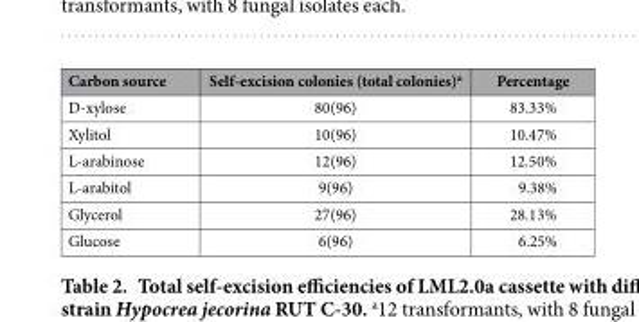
<table><thead><tr><td>Carbon source</td><td>Self-excision colonies (total colonies)<sup>a</sup></td><td>Percentage</td></tr></thead><tbody><tr><td>D-xylose</td><td>80(96)</td><td>83.33%</td></tr><tr><td>Xylitol</td><td>10(96)</td><td>10.47%</td></tr><tr><td>L-arabinose</td><td>12(96)</td><td>12.50%</td></tr><tr><td>L-arabitol</td><td>9(96)</td><td>9.38%</td></tr><tr><td>Glycerol</td><td>27(96)</td><td>28.13%</td></tr><tr><td>Glucose</td><td>6(96)</td><td>6.25%</td></tr></tbody></table>